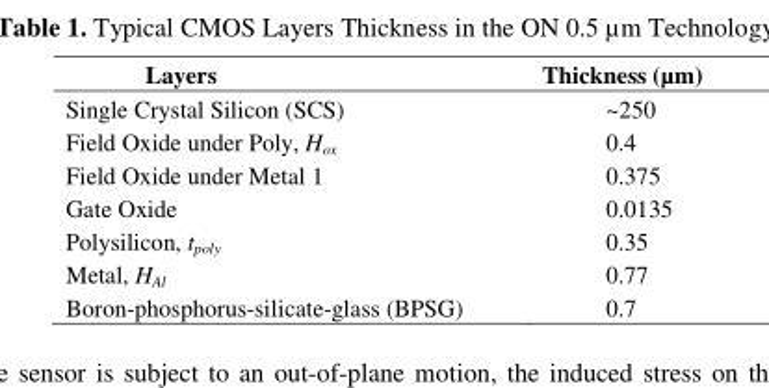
<table><thead><tr><td>Layers</td><td>Thickness (µm)</td></tr></thead><tbody><tr><td>Single Crystal Silicon (SCS)</td><td>~250</td></tr><tr><td>Field Oxide under Poly, H<sub>ox</sub></td><td>0.4</td></tr><tr><td>Field Oxide under Metal 1</td><td>0.375</td></tr><tr><td>Gate Oxide</td><td>0.0135</td></tr><tr><td>Polysilicon, t<sub>poly</sub></td><td>0.35</td></tr><tr><td>Metal, H<sub>Al</sub></td><td>0.77</td></tr><tr><td>Boron-phosphorus-silicate-glass (BPSG)</td><td>0.7</td></tr></tbody></table>